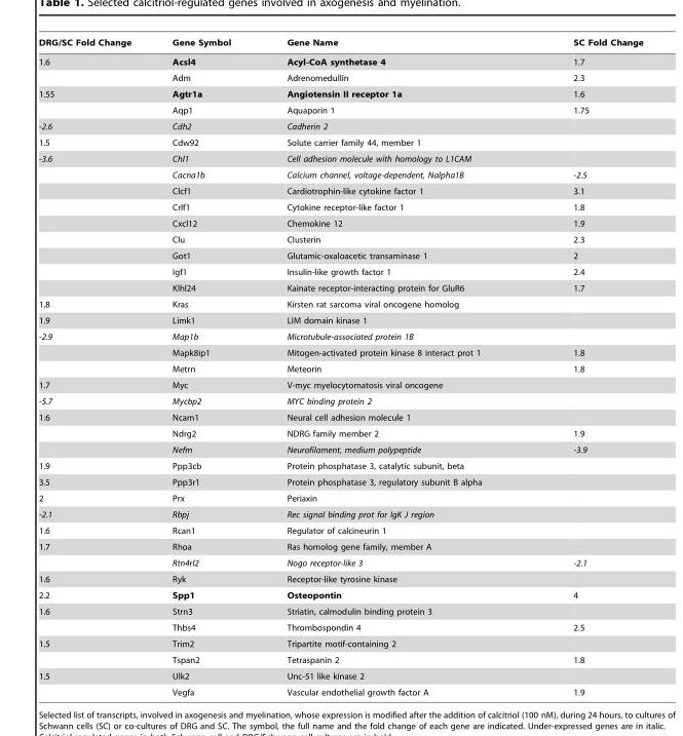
<table><thead><tr><td>DRG/SC Fold Change</td><td>Gene Symbol</td><td>Gene Name</td><td>SC Fold Change</td></tr></thead><tbody><tr><td rowspan="2">1.6</td><td>Acsl4</td><td>Acyl-CoA synthetase 4</td><td>1.7</td></tr><tr><td>Adm</td><td>Adrenomedullin</td><td>2.3</td></tr><tr><td rowspan="2">1.55</td><td>Agtr1a</td><td>Angiotensin II receptor 1a</td><td>1.6</td></tr><tr><td>Aqp1</td><td>Aquaporin 1</td><td>1.75</td></tr><tr><td>-2.6</td><td>Cdh2</td><td>Cadherin 2</td><td></td></tr><tr><td>1.5</td><td>Cdw92</td><td>Solute carrier family 44, member 1</td><td></td></tr><tr><td rowspan="9">-3.6</td><td>Chl1</td><td>Cell adhesion molecule with homology to L1CAM</td><td></td></tr><tr><td>Cacna1b</td><td>Calcium channel, voltage-dependent, Nalpha1B</td><td>-2.5</td></tr><tr><td>Clcf1</td><td>Cardiotrophin-like cytokine factor 1</td><td>3.1</td></tr><tr><td>Crlf1</td><td>Cytokine receptor-like factor 1</td><td>1.8</td></tr><tr><td>Cxcl12</td><td>Chemokine 12</td><td>1.9</td></tr><tr><td>Clu</td><td>Clusterin</td><td>2.3</td></tr><tr><td>Got1</td><td>Glutamic-oxaloacetic transaminase 1</td><td>2</td></tr><tr><td>Igf1</td><td>Insulin-like growth factor 1</td><td>2.4</td></tr><tr><td>Klhl24</td><td>Kainate receptor-interacting protein for GluR6</td><td>1.7</td></tr><tr><td>1.8</td><td>Kras</td><td>Kirsten rat sarcoma viral oncogene homolog</td><td></td></tr><tr><td>1.9</td><td>Limk1</td><td>LIM domain kinase 1</td><td></td></tr><tr><td rowspan="3">-2.9</td><td>Map1b</td><td>Microtubule-associated protein 1B</td><td></td></tr><tr><td>Mapk8ip1</td><td>Mitogen-activated protein kinase 8 interact prot 1</td><td>1.8</td></tr><tr><td>Metrn</td><td>Meteorin</td><td>1.8</td></tr><tr><td>1.7</td><td>Myc</td><td>V-myc myelocytomatosis viral oncogene</td><td></td></tr><tr><td>-5.7</td><td>Mycbp2</td><td>MYC binding protein 2</td><td></td></tr><tr><td rowspan="3">1.6</td><td>Ncam1</td><td>Neural cell adhesion molecule 1</td><td></td></tr><tr><td>Ndrg2</td><td>NDRG family member 2</td><td>1.9</td></tr><tr><td>Nefm</td><td>Neurofilament, medium polypeptide</td><td>-3.9</td></tr><tr><td>1.9</td><td>Ppp3cb</td><td>Protein phosphatase 3, catalytic subunit, beta</td><td></td></tr><tr><td>3.5</td><td>Ppp3r1</td><td>Protein phosphatase 3, regulatory subunit B alpha</td><td></td></tr><tr><td>2</td><td>Prx</td><td>Periaxin</td><td></td></tr><tr><td>-2.1</td><td>Rbpj</td><td>Rec signal binding prot for IgK J region</td><td></td></tr><tr><td>1.6</td><td>Rcan1</td><td>Regulator of calcineurin 1</td><td></td></tr><tr><td rowspan="2">1.7</td><td>Rhoa</td><td>Ras homolog gene family, member A</td><td></td></tr><tr><td>Rtn4rl2</td><td>Nogo receptor-like 3</td><td>-2.1</td></tr><tr><td>1.6</td><td>Ryk</td><td>Receptor-like tyrosine kinase</td><td></td></tr><tr><td>2.2</td><td>Spp1</td><td>Osteopontin</td><td>4</td></tr><tr><td rowspan="2">1.6</td><td>Strn3</td><td>Striatin, calmodulin binding protein 3</td><td></td></tr><tr><td>Thbs4</td><td>Thrombospondin 4</td><td>2.5</td></tr><tr><td rowspan="2">1.5</td><td>Trim2</td><td>Tripartite motif-containing 2</td><td></td></tr><tr><td>Tspan2</td><td>Tetraspanin 2</td><td>1.8</td></tr><tr><td rowspan="2">1.5</td><td>Ulk2</td><td>Unc-51 like kinase 2</td><td></td></tr><tr><td>Vegfa</td><td>Vascular endothelial growth factor A</td><td>1.9</td></tr></tbody></table>